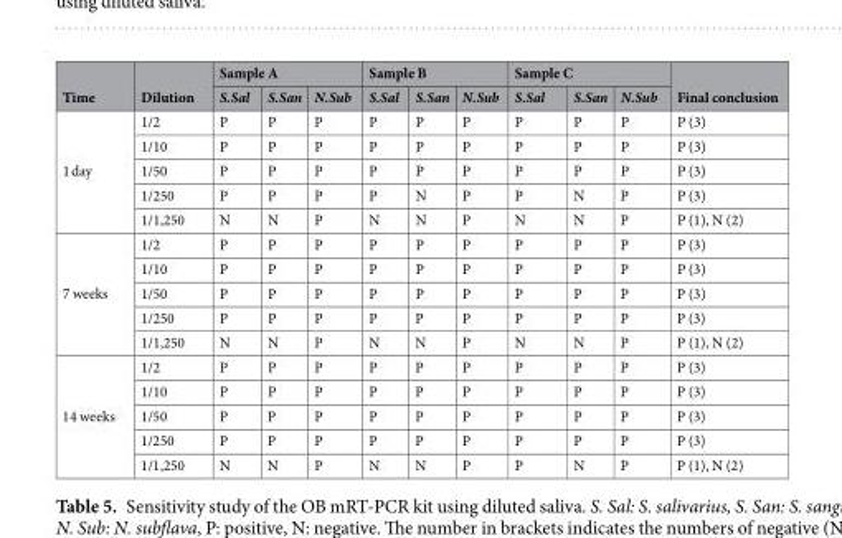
<table><thead><tr><td rowspan="2">Time</td><td rowspan="2">Dilution</td><td colspan="3">Sample A</td><td colspan="3">Sample B</td><td colspan="3">Sample C</td><td rowspan="2">Final conclusion</td></tr><tr><td>S.Sal</td><td>S.San</td><td>N.Sub</td><td>S.Sal</td><td>S.San</td><td>N.Sub</td><td>S.Sal</td><td>S.San</td><td>N.Sub</td></tr></thead><tbody><tr><td rowspan="5">1 day</td><td>1/2</td><td>P</td><td>P</td><td>P</td><td>P</td><td>P</td><td>P</td><td>P</td><td>P</td><td>P</td><td>P (3)</td></tr><tr><td>1/10</td><td>P</td><td>P</td><td>P</td><td>P</td><td>P</td><td>P</td><td>P</td><td>P</td><td>P</td><td>P (3)</td></tr><tr><td>1/50</td><td>P</td><td>P</td><td>P</td><td>P</td><td>P</td><td>P</td><td>P</td><td>P</td><td>P</td><td>P (3)</td></tr><tr><td>1/250</td><td>P</td><td>P</td><td>P</td><td>P</td><td>N</td><td>P</td><td>P</td><td>N</td><td>P</td><td>P (3)</td></tr><tr><td>1/1,250</td><td>N</td><td>N</td><td>P</td><td>N</td><td>N</td><td>P</td><td>N</td><td>N</td><td>P</td><td>P (1), N (2)</td></tr><tr><td rowspan="5">7 weeks</td><td>1/2</td><td>P</td><td>P</td><td>P</td><td>P</td><td>P</td><td>P</td><td>P</td><td>P</td><td>P</td><td>P (3)</td></tr><tr><td>1/10</td><td>P</td><td>P</td><td>P</td><td>P</td><td>P</td><td>P</td><td>P</td><td>P</td><td>P</td><td>P (3)</td></tr><tr><td>1/50</td><td>P</td><td>P</td><td>P</td><td>P</td><td>P</td><td>P</td><td>P</td><td>P</td><td>P</td><td>P (3)</td></tr><tr><td>1/250</td><td>P</td><td>P</td><td>P</td><td>P</td><td>P</td><td>P</td><td>P</td><td>P</td><td>P</td><td>P (3)</td></tr><tr><td>1/1,250</td><td>N</td><td>N</td><td>P</td><td>N</td><td>N</td><td>P</td><td>N</td><td>N</td><td>P</td><td>P (1), N (2)</td></tr><tr><td rowspan="5">14 weeks</td><td>1/2</td><td>P</td><td>P</td><td>P</td><td>P</td><td>P</td><td>P</td><td>P</td><td>P</td><td>P</td><td>P (3)</td></tr><tr><td>1/10</td><td>P</td><td>P</td><td>P</td><td>P</td><td>P</td><td>P</td><td>P</td><td>P</td><td>P</td><td>P (3)</td></tr><tr><td>1/50</td><td>P</td><td>P</td><td>P</td><td>P</td><td>P</td><td>P</td><td>P</td><td>P</td><td>P</td><td>P (3)</td></tr><tr><td>1/250</td><td>P</td><td>P</td><td>P</td><td>P</td><td>P</td><td>P</td><td>P</td><td>P</td><td>P</td><td>P (3)</td></tr><tr><td>1/1,250</td><td>N</td><td>N</td><td>P</td><td>N</td><td>N</td><td>P</td><td>P</td><td>N</td><td>P</td><td>P (1), N (2)</td></tr></tbody></table>